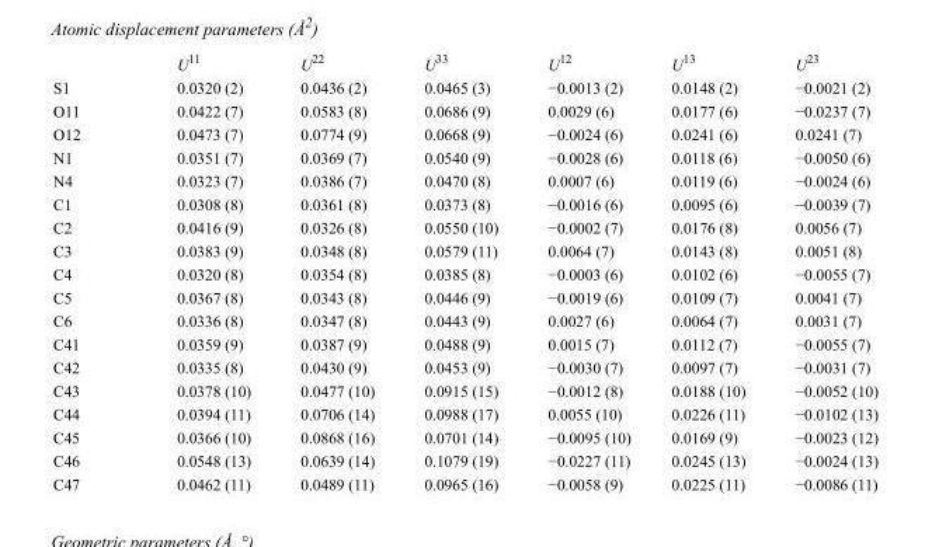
<table><thead><tr><td></td><td>U<sup>11</sup></td><td>U<sup>22</sup></td><td>U<sup>33</sup></td><td>U<sup>12</sup></td><td>U<sup>13</sup></td><td>U<sup>23</sup></td></tr></thead><tbody><tr><td>S1</td><td>0.0320 (2)</td><td>0.0436 (2)</td><td>0.0465 (3)</td><td>−0.0013 (2)</td><td>0.0148 (2)</td><td>−0.0021 (2)</td></tr><tr><td>O11</td><td>0.0422 (7)</td><td>0.0583 (8)</td><td>0.0686 (9)</td><td>0.0029 (6)</td><td>0.0177 (6)</td><td>−0.0237 (7)</td></tr><tr><td>O12</td><td>0.0473 (7)</td><td>0.0774 (9)</td><td>0.0668 (9)</td><td>−0.0024 (6)</td><td>0.0241 (6)</td><td>0.0241 (7)</td></tr><tr><td>N1</td><td>0.0351 (7)</td><td>0.0369 (7)</td><td>0.0540 (9)</td><td>−0.0028 (6)</td><td>0.0118 (6)</td><td>−0.0050 (6)</td></tr><tr><td>N4</td><td>0.0323 (7)</td><td>0.0386 (7)</td><td>0.0470 (8)</td><td>0.0007 (6)</td><td>0.0119 (6)</td><td>−0.0024 (6)</td></tr><tr><td>C1</td><td>0.0308 (8)</td><td>0.0361 (8)</td><td>0.0373 (8)</td><td>−0.0016 (6)</td><td>0.0095 (6)</td><td>−0.0039 (7)</td></tr><tr><td>C2</td><td>0.0416 (9)</td><td>0.0326 (8)</td><td>0.0550 (10)</td><td>−0.0002 (7)</td><td>0.0176 (8)</td><td>0.0056 (7)</td></tr><tr><td>C3</td><td>0.0383 (9)</td><td>0.0348 (8)</td><td>0.0579 (11)</td><td>0.0064 (7)</td><td>0.0143 (8)</td><td>0.0051 (8)</td></tr><tr><td>C4</td><td>0.0320 (8)</td><td>0.0354 (8)</td><td>0.0385 (8)</td><td>−0.0003 (6)</td><td>0.0102 (6)</td><td>−0.0055 (7)</td></tr><tr><td>C5</td><td>0.0367 (8)</td><td>0.0343 (8)</td><td>0.0446 (9)</td><td>−0.0019 (6)</td><td>0.0109 (7)</td><td>0.0041 (7)</td></tr><tr><td>C6</td><td>0.0336 (8)</td><td>0.0347 (8)</td><td>0.0443 (9)</td><td>0.0027 (6)</td><td>0.0064 (7)</td><td>0.0031 (7)</td></tr><tr><td>C41</td><td>0.0359 (9)</td><td>0.0387 (9)</td><td>0.0488 (9)</td><td>0.0015 (7)</td><td>0.0112 (7)</td><td>−0.0055 (7)</td></tr><tr><td>C42</td><td>0.0335 (8)</td><td>0.0430 (9)</td><td>0.0453 (9)</td><td>−0.0030 (7)</td><td>0.0097 (7)</td><td>−0.0031 (7)</td></tr><tr><td>C43</td><td>0.0378 (10)</td><td>0.0477 (10)</td><td>0.0915 (15)</td><td>−0.0012 (8)</td><td>0.0188 (10)</td><td>−0.0052 (10)</td></tr><tr><td>C44</td><td>0.0394 (11)</td><td>0.0706 (14)</td><td>0.0988 (17)</td><td>0.0055 (10)</td><td>0.0226 (11)</td><td>−0.0102 (13)</td></tr><tr><td>C45</td><td>0.0366 (10)</td><td>0.0868 (16)</td><td>0.0701 (14)</td><td>−0.0095 (10)</td><td>0.0169 (9)</td><td>−0.0023 (12)</td></tr><tr><td>C46</td><td>0.0548 (13)</td><td>0.0639 (14)</td><td>0.1079 (19)</td><td>−0.0227 (11)</td><td>0.0245 (13)</td><td>−0.0024 (13)</td></tr><tr><td>C47</td><td>0.0462 (11)</td><td>0.0489 (11)</td><td>0.0965 (16)</td><td>−0.0058 (9)</td><td>0.0225 (11)</td><td>−0.0086 (11)</td></tr></tbody></table>